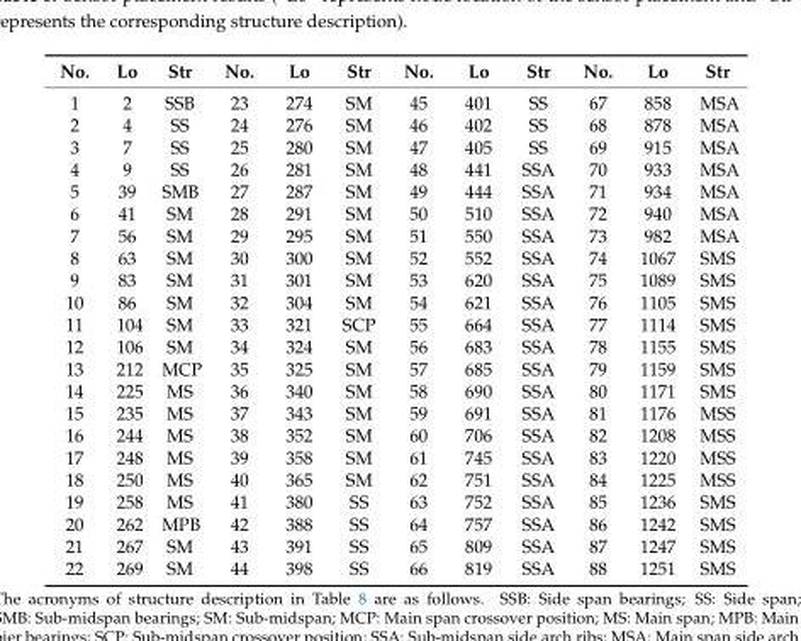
<table><thead><tr><td>No.</td><td>Lo</td><td>Str</td><td>No.</td><td>Lo</td><td>Str</td><td>No.</td><td>Lo</td><td>Str</td><td>No.</td><td>Lo</td><td>Str</td></tr></thead><tbody><tr><td>1</td><td>2</td><td>SSB</td><td>23</td><td>274</td><td>SM</td><td>45</td><td>401</td><td>SS</td><td>67</td><td>858</td><td>MSA</td></tr><tr><td>2</td><td>4</td><td>SS</td><td>24</td><td>276</td><td>SM</td><td>46</td><td>402</td><td>SS</td><td>68</td><td>878</td><td>MSA</td></tr><tr><td>3</td><td>7</td><td>SS</td><td>25</td><td>280</td><td>SM</td><td>47</td><td>405</td><td>SS</td><td>69</td><td>915</td><td>MSA</td></tr><tr><td>4</td><td>9</td><td>SS</td><td>26</td><td>281</td><td>SM</td><td>48</td><td>441</td><td>SSA</td><td>70</td><td>933</td><td>MSA</td></tr><tr><td>5</td><td>39</td><td>SMB</td><td>27</td><td>287</td><td>SM</td><td>49</td><td>444</td><td>SSA</td><td>71</td><td>934</td><td>MSA</td></tr><tr><td>6</td><td>41</td><td>SM</td><td>28</td><td>291</td><td>SM</td><td>50</td><td>510</td><td>SSA</td><td>72</td><td>940</td><td>MSA</td></tr><tr><td>7</td><td>56</td><td>SM</td><td>29</td><td>295</td><td>SM</td><td>51</td><td>550</td><td>SSA</td><td>73</td><td>982</td><td>MSA</td></tr><tr><td>8</td><td>63</td><td>SM</td><td>30</td><td>300</td><td>SM</td><td>52</td><td>552</td><td>SSA</td><td>74</td><td>1067</td><td>SMS</td></tr><tr><td>9</td><td>83</td><td>SM</td><td>31</td><td>301</td><td>SM</td><td>53</td><td>620</td><td>SSA</td><td>75</td><td>1089</td><td>SMS</td></tr><tr><td>10</td><td>86</td><td>SM</td><td>32</td><td>304</td><td>SM</td><td>54</td><td>621</td><td>SSA</td><td>76</td><td>1105</td><td>SMS</td></tr><tr><td>11</td><td>104</td><td>SM</td><td>33</td><td>321</td><td>SCP</td><td>55</td><td>664</td><td>SSA</td><td>77</td><td>1114</td><td>SMS</td></tr><tr><td>12</td><td>106</td><td>SM</td><td>34</td><td>324</td><td>SM</td><td>56</td><td>683</td><td>SSA</td><td>78</td><td>1155</td><td>SMS</td></tr><tr><td>13</td><td>212</td><td>MCP</td><td>35</td><td>325</td><td>SM</td><td>57</td><td>685</td><td>SSA</td><td>79</td><td>1159</td><td>SMS</td></tr><tr><td>14</td><td>225</td><td>MS</td><td>36</td><td>340</td><td>SM</td><td>58</td><td>690</td><td>SSA</td><td>80</td><td>1171</td><td>SMS</td></tr><tr><td>15</td><td>235</td><td>MS</td><td>37</td><td>343</td><td>SM</td><td>59</td><td>691</td><td>SSA</td><td>81</td><td>1176</td><td>MSS</td></tr><tr><td>16</td><td>244</td><td>MS</td><td>38</td><td>352</td><td>SM</td><td>60</td><td>706</td><td>SSA</td><td>82</td><td>1208</td><td>MSS</td></tr><tr><td>17</td><td>248</td><td>MS</td><td>39</td><td>358</td><td>SM</td><td>61</td><td>745</td><td>SSA</td><td>83</td><td>1220</td><td>MSS</td></tr><tr><td>18</td><td>250</td><td>MS</td><td>40</td><td>365</td><td>SM</td><td>62</td><td>751</td><td>SSA</td><td>84</td><td>1225</td><td>MSS</td></tr><tr><td>19</td><td>258</td><td>MS</td><td>41</td><td>380</td><td>SS</td><td>63</td><td>752</td><td>SSA</td><td>85</td><td>1236</td><td>SMS</td></tr><tr><td>20</td><td>262</td><td>MPB</td><td>42</td><td>388</td><td>SS</td><td>64</td><td>757</td><td>SSA</td><td>86</td><td>1242</td><td>SMS</td></tr><tr><td>21</td><td>267</td><td>SM</td><td>43</td><td>391</td><td>SS</td><td>65</td><td>809</td><td>SSA</td><td>87</td><td>1247</td><td>SMS</td></tr><tr><td>22</td><td>269</td><td>SM</td><td>44</td><td>398</td><td>SS</td><td>66</td><td>819</td><td>SSA</td><td>88</td><td>1251</td><td>SMS</td></tr></tbody></table>